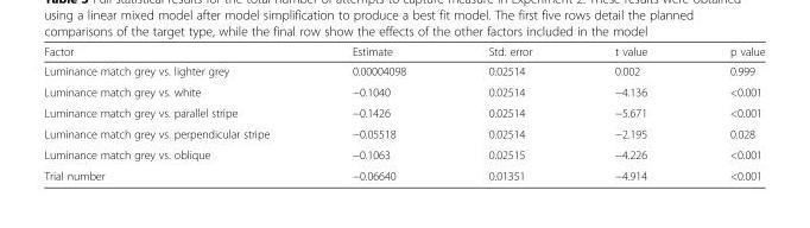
<table><thead><tr><td>Factor</td><td>Estimate</td><td>Std. error</td><td>t value</td><td>p value</td></tr></thead><tbody><tr><td>Luminance match grey vs. lighter grey</td><td>0.00004098</td><td>0.02514</td><td>0.002</td><td>0.999</td></tr><tr><td>Luminance match grey vs. white</td><td>−0.1040</td><td>0.02514</td><td>−4.136</td><td>&lt;0.001</td></tr><tr><td>Luminance match grey vs. parallel stripe</td><td>−0.1426</td><td>0.02514</td><td>−5.671</td><td>&lt;0.001</td></tr><tr><td>Luminance match grey vs. perpendicular stripe</td><td>−0.05518</td><td>0.02514</td><td>−2.195</td><td>0.028</td></tr><tr><td>Luminance match grey vs. oblique</td><td>−0.1063</td><td>0.02515</td><td>−4.226</td><td>&lt;0.001</td></tr><tr><td>Trial number</td><td>−0.06640</td><td>0.01351</td><td>−4.914</td><td>&lt;0.001</td></tr></tbody></table>